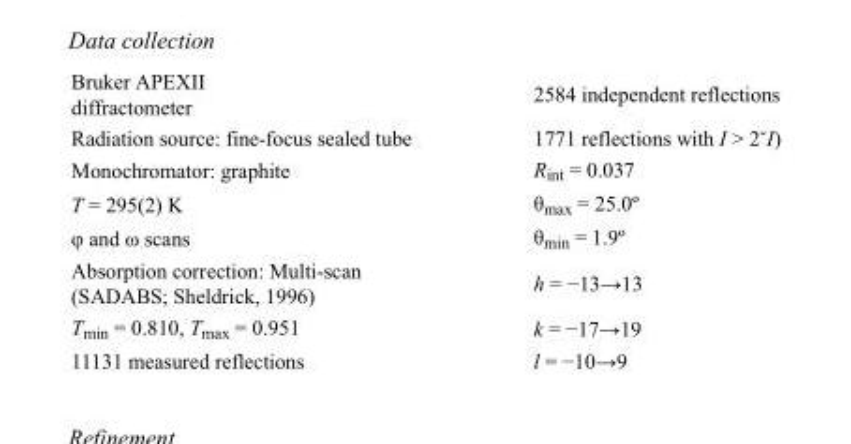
<table><tbody><tr><td>Bruker APEXII diffractometer</td><td>2584 independent reflections</td></tr><tr><td>Radiation source: fine-focus sealed tube</td><td>1771 reflections with I &gt; 2˘I)</td></tr><tr><td>Monochromator: graphite</td><td>R<sub>int</sub> = 0.037</td></tr><tr><td>T = 295(2) K</td><td>θ<sub>max</sub> = 25.0º</td></tr><tr><td>φ and ω scans</td><td>θ<sub>min</sub> = 1.9º</td></tr><tr><td>Absorption correction: Multi-scan (SADABS; Sheldrick, 1996)</td><td>h = −13→13</td></tr><tr><td>T<sub>min</sub> = 0.810, T<sub>max</sub> = 0.951</td><td>k = −17→19</td></tr><tr><td>11131 measured reflections</td><td>l = −10→9</td></tr></tbody></table>